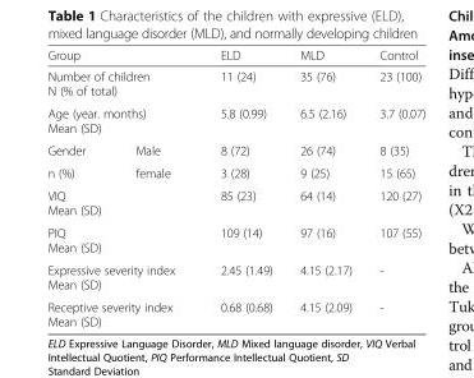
<table><thead><tr><td rowspan="3" colspan="2">Group Number of children N (% of total) Age (year. months) Mean (SD)</td><td rowspan="4">ELD 11 (24) 5.8 (0.99) 8 (72)</td><td rowspan="4">MLD 35 (76) 6.5 (2.16) 26 (74)</td><td rowspan="4">Control 23 (100) 3.7 (0.07) 8 (35)</td></tr><tr></tr><tr></tr><tr><td>Gender</td><td>Male</td></tr></thead><tbody><tr><td>n (%)</td><td>female</td><td>3 (28)</td><td>9 (25)</td><td>15 (65)</td></tr><tr><td colspan="2">VIQ Mean (SD)</td><td>85 (23)</td><td>64 (14)</td><td>120 (27)</td></tr><tr><td colspan="2">PIQ Mean (SD)</td><td>109 (14)</td><td>97 (16)</td><td>107 (55)</td></tr><tr><td colspan="2">Expressive severity index Mean (SD)</td><td>2.45 (1.49)</td><td>4.15 (2.17)</td><td>-</td></tr><tr><td colspan="2">Receptive severity index Mean (SD)</td><td>0.68 (0.68)</td><td>4.15 (2.09)</td><td>-</td></tr></tbody></table>